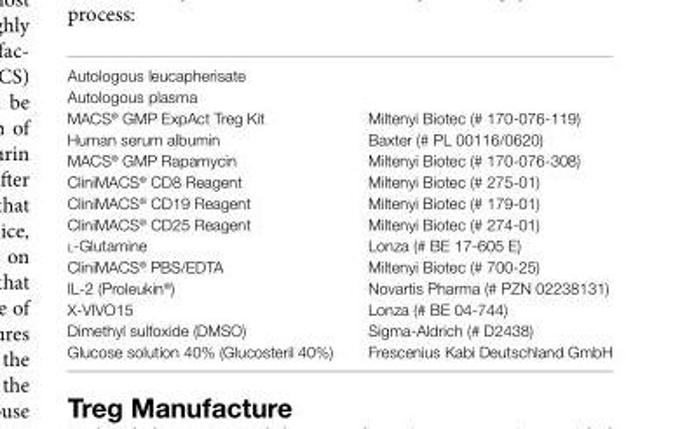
<table><tbody><tr><td colspan="2">Autologous leucapherisate</td></tr><tr><td colspan="2">Autologous plasma</td></tr><tr><td>MACS<sup>®</sup> GMP ExpAct Treg Kit</td><td>Miltenyi Biotec (# 170-076-119)</td></tr><tr><td>Human serum albumin</td><td>Baxter (# PL 00116/0620)</td></tr><tr><td>MACS<sup>®</sup> GMP Rapamycin</td><td>Miltenyi Biotec (# 170-076-308)</td></tr><tr><td>CliniMACS<sup>®</sup> CD8 Reagent</td><td>Miltenyi Biotec (# 275-01)</td></tr><tr><td>CliniMACS<sup>®</sup> CD19 Reagent</td><td>Miltenyi Biotec (# 179-01)</td></tr><tr><td>CliniMACS<sup>®</sup> CD25 Reagent</td><td>Miltenyi Biotec (# 274-01)</td></tr><tr><td>l-Glutamine</td><td>Lonza (# BE 17-605 E)</td></tr><tr><td>CliniMACS<sup>®</sup> PBS/EDTA</td><td>Miltenyi Biotec (# 700-25)</td></tr><tr><td>IL-2 (Proleukin<sup>®</sup>)</td><td>Novartis Pharma (# PZN 02238131)</td></tr><tr><td>X-VIVO15</td><td>Lonza (# BE 04-744)</td></tr><tr><td>Dimethyl sulfoxide (DMSO)</td><td>Sigma-Aldrich (# D2438)</td></tr><tr><td>Glucose solution 40% (Glucosteril 40%)</td><td>Frescenius Kabi Deutschland GmbH</td></tr></tbody></table>